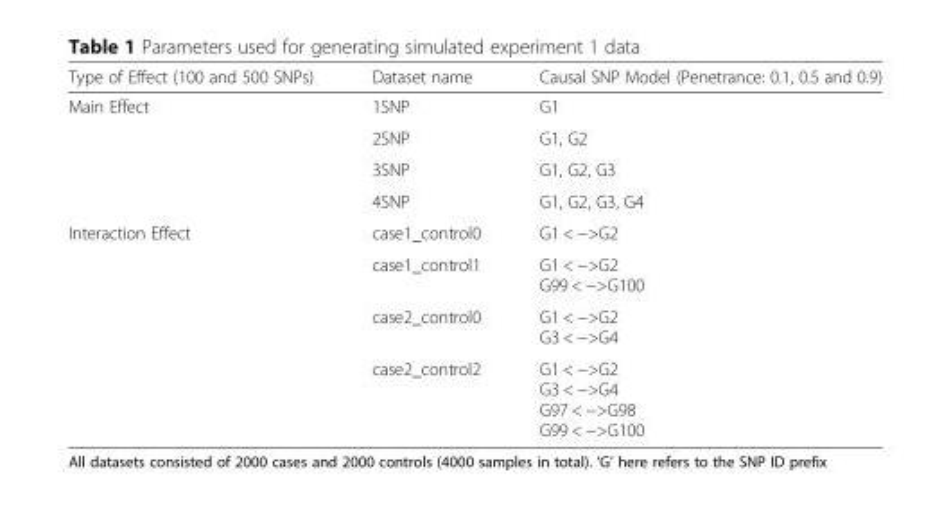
<table><thead><tr><td>Type of Effect (100 and 500 SNPs)</td><td>Dataset name</td><td>Causal SNP Model (Penetrance: 0.1, 0.5 and 0.9)</td></tr></thead><tbody><tr><td rowspan="4">Main Effect</td><td>1SNP</td><td>G1</td></tr><tr><td>2SNP</td><td>G1, G2</td></tr><tr><td>3SNP</td><td>G1, G2, G3</td></tr><tr><td>4SNP</td><td>G1, G2, G3, G4</td></tr><tr><td rowspan="4">Interaction Effect</td><td>case1_control0</td><td>G1 &lt; −&gt;G2</td></tr><tr><td>case1_control1</td><td>G1 &lt; −&gt;G2 G99 &lt; −&gt;G100</td></tr><tr><td>case2_control0</td><td>G1 &lt; −&gt;G2 G3 &lt; −&gt;G4</td></tr><tr><td>case2_control2</td><td>G1 &lt; −&gt;G2 G3 &lt; −&gt;G4 G97 &lt; −&gt;G98 G99 &lt; −&gt;G100</td></tr></tbody></table>